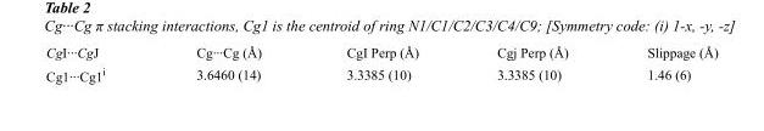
<table><tbody><tr><td>CgI···CgJ</td><td>Cg···Cg (Å)</td><td>CgI Perp (Å)</td><td>Cgj Perp (Å)</td><td>Slippage (Å)</td></tr><tr><td>Cg1···Cg1<sup>i</sup></td><td>3.6460 (14)</td><td>3.3385 (10)</td><td>3.3385 (10)</td><td>1.46 (6)</td></tr></tbody></table>